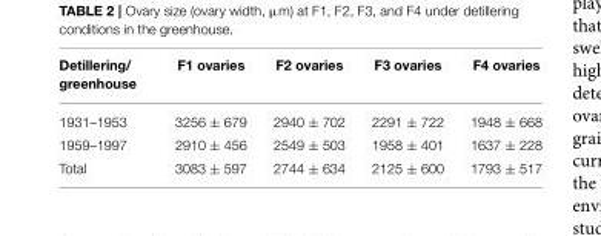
<table><thead><tr><td>Detillering/ greenhouse</td><td>F1 ovaries</td><td>F2 ovaries</td><td>F3 ovaries</td><td>F4 ovaries</td></tr></thead><tbody><tr><td>1931–1953</td><td>3256 ± 679</td><td>2940 ± 702</td><td>2291 ± 722</td><td>1948 ± 668</td></tr><tr><td>1959–1997</td><td>2910 ± 456</td><td>2549 ± 503</td><td>1958 ± 401</td><td>1637 ± 228</td></tr><tr><td>Total</td><td>3083 ± 597</td><td>2744 ± 634</td><td>2125 ± 600</td><td>1793 ± 517</td></tr></tbody></table>